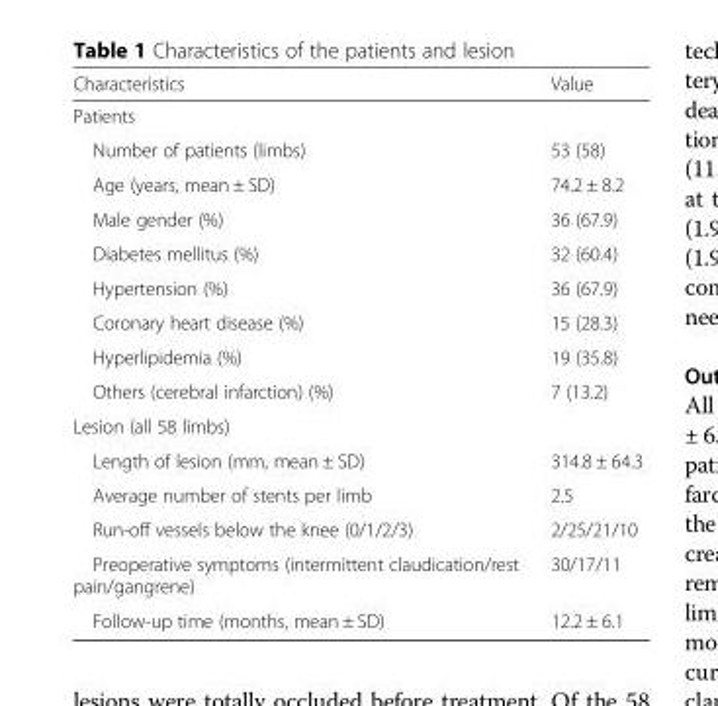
<table><thead><tr><td>Characteristics</td><td>Value</td></tr></thead><tbody><tr><td colspan="2">Patients</td></tr><tr><td>Number of patients (limbs)</td><td>53 (58)</td></tr><tr><td>Age (years, mean ± SD)</td><td>74.2 ± 8.2</td></tr><tr><td>Male gender (%)</td><td>36 (67.9)</td></tr><tr><td>Diabetes mellitus (%)</td><td>32 (60.4)</td></tr><tr><td>Hypertension (%)</td><td>36 (67.9)</td></tr><tr><td>Coronary heart disease (%)</td><td>15 (28.3)</td></tr><tr><td>Hyperlipidemia (%)</td><td>19 (35.8)</td></tr><tr><td>Others (cerebral infarction) (%)</td><td>7 (13.2)</td></tr><tr><td colspan="2">Lesion (all 58 limbs)</td></tr><tr><td>Length of lesion (mm, mean ± SD)</td><td>314.8 ± 64.3</td></tr><tr><td>Average number of stents per limb</td><td>2.5</td></tr><tr><td>Run-off vessels below the knee (0/1/2/3)</td><td>2/25/21/10</td></tr><tr><td>Preoperative symptoms (intermittent claudication/rest pain/gangrene)</td><td>30/17/11</td></tr><tr><td>Follow-up time (months, mean ± SD)</td><td>12.2 ± 6.1</td></tr></tbody></table>